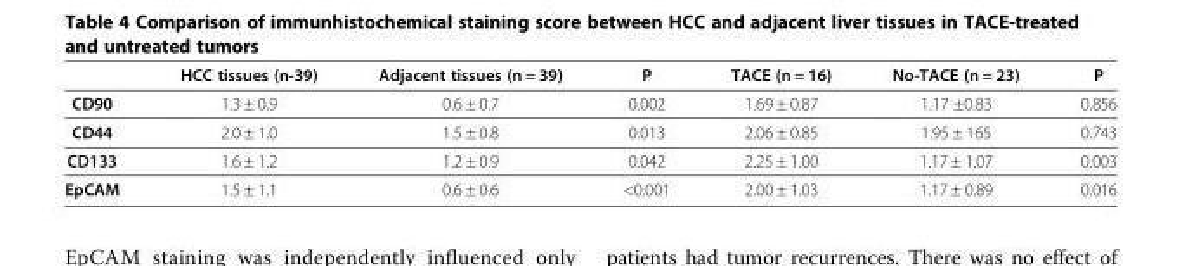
<table><thead><tr><td></td><td>HCC tissues (n-39)</td><td>Adjacent tissues (n = 39)</td><td>P</td><td>TACE (n = 16)</td><td>No-TACE (n = 23)</td><td>P</td></tr></thead><tbody><tr><td>CD90</td><td>1.3 ± 0.9</td><td>0.6 ± 0.7</td><td>0.002</td><td>1.69 ± 0.87</td><td>1.17 ±0.83</td><td>0.856</td></tr><tr><td>CD44</td><td>2.0 ± 1.0</td><td>1.5 ± 0.8</td><td>0.013</td><td>2.06 ± 0.85</td><td>1.95 ± 165</td><td>0.743</td></tr><tr><td>CD133</td><td>1.6 ± 1.2</td><td>1.2 ± 0.9</td><td>0.042</td><td>2.25 ± 1.00</td><td>1.17 ± 1.07</td><td>0.003</td></tr><tr><td>EpCAM</td><td>1.5 ± 1.1</td><td>0.6 ± 0.6</td><td>&lt;0.001</td><td>2.00 ± 1.03</td><td>1.17 ± 0.89</td><td>0.016</td></tr></tbody></table>